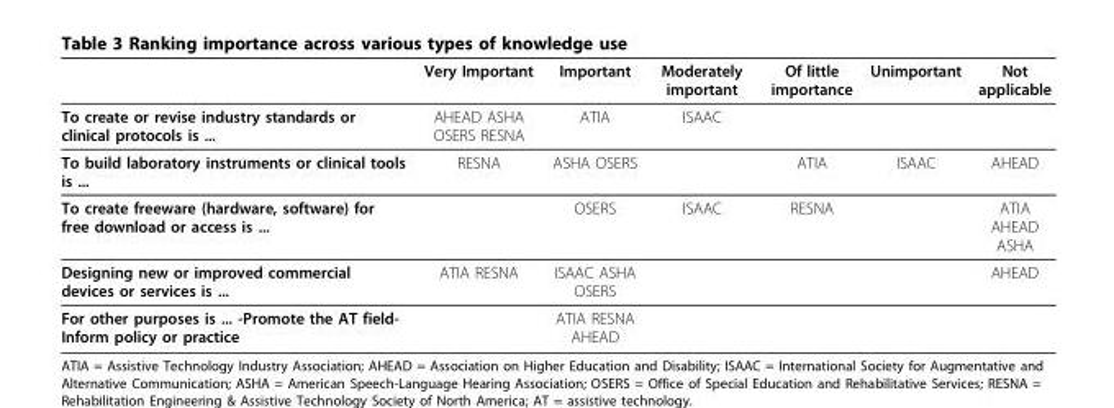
<table><thead><tr><td></td><td>Very Important</td><td>Important</td><td>Moderately important</td><td>Of little importance</td><td>Unimportant</td><td>Not applicable</td></tr></thead><tbody><tr><td>To create or revise industry standards or clinical protocols is ...</td><td>AHEAD ASHA OSERS RESNA</td><td>ATIA</td><td>ISAAC</td><td></td><td></td><td></td></tr><tr><td>To build laboratory instruments or clinical tools is ...</td><td>RESNA</td><td>ASHA OSERS</td><td></td><td>ATIA</td><td>ISAAC</td><td>AHEAD</td></tr><tr><td>To create freeware (hardware, software) for free download or access is ...</td><td></td><td>OSERS</td><td>ISAAC</td><td>RESNA</td><td></td><td>ATIA AHEAD ASHA</td></tr><tr><td>Designing new or improved commercial devices or services is ...</td><td>ATIA RESNA</td><td>ISAAC ASHA OSERS</td><td></td><td></td><td></td><td>AHEAD</td></tr><tr><td>For other purposes is ... -Promote the AT field- Inform policy or practice</td><td></td><td>ATIA RESNA AHEAD</td><td></td><td></td><td></td><td></td></tr></tbody></table>